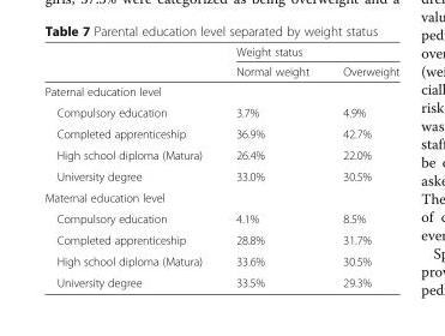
<table><thead><tr><td rowspan="2"></td><td colspan="2">Weight status</td></tr><tr><td>Normal weight</td><td>Overweight</td></tr></thead><tbody><tr><td colspan="3">Paternal education level</td></tr><tr><td>Compulsory education</td><td>3.7%</td><td>4.9%</td></tr><tr><td>Completed apprenticeship</td><td>36.9%</td><td>42.7%</td></tr><tr><td>High school diploma (Matura)</td><td>26.4%</td><td>22.0%</td></tr><tr><td>University degree</td><td>33.0%</td><td>30.5%</td></tr><tr><td colspan="3">Maternal education level</td></tr><tr><td>Compulsory education</td><td>4.1%</td><td>8.5%</td></tr><tr><td>Completed apprenticeship</td><td>28.8%</td><td>31.7%</td></tr><tr><td>High school diploma (Matura)</td><td>33.6%</td><td>30.5%</td></tr><tr><td>University degree</td><td>33.5%</td><td>29.3%</td></tr></tbody></table>